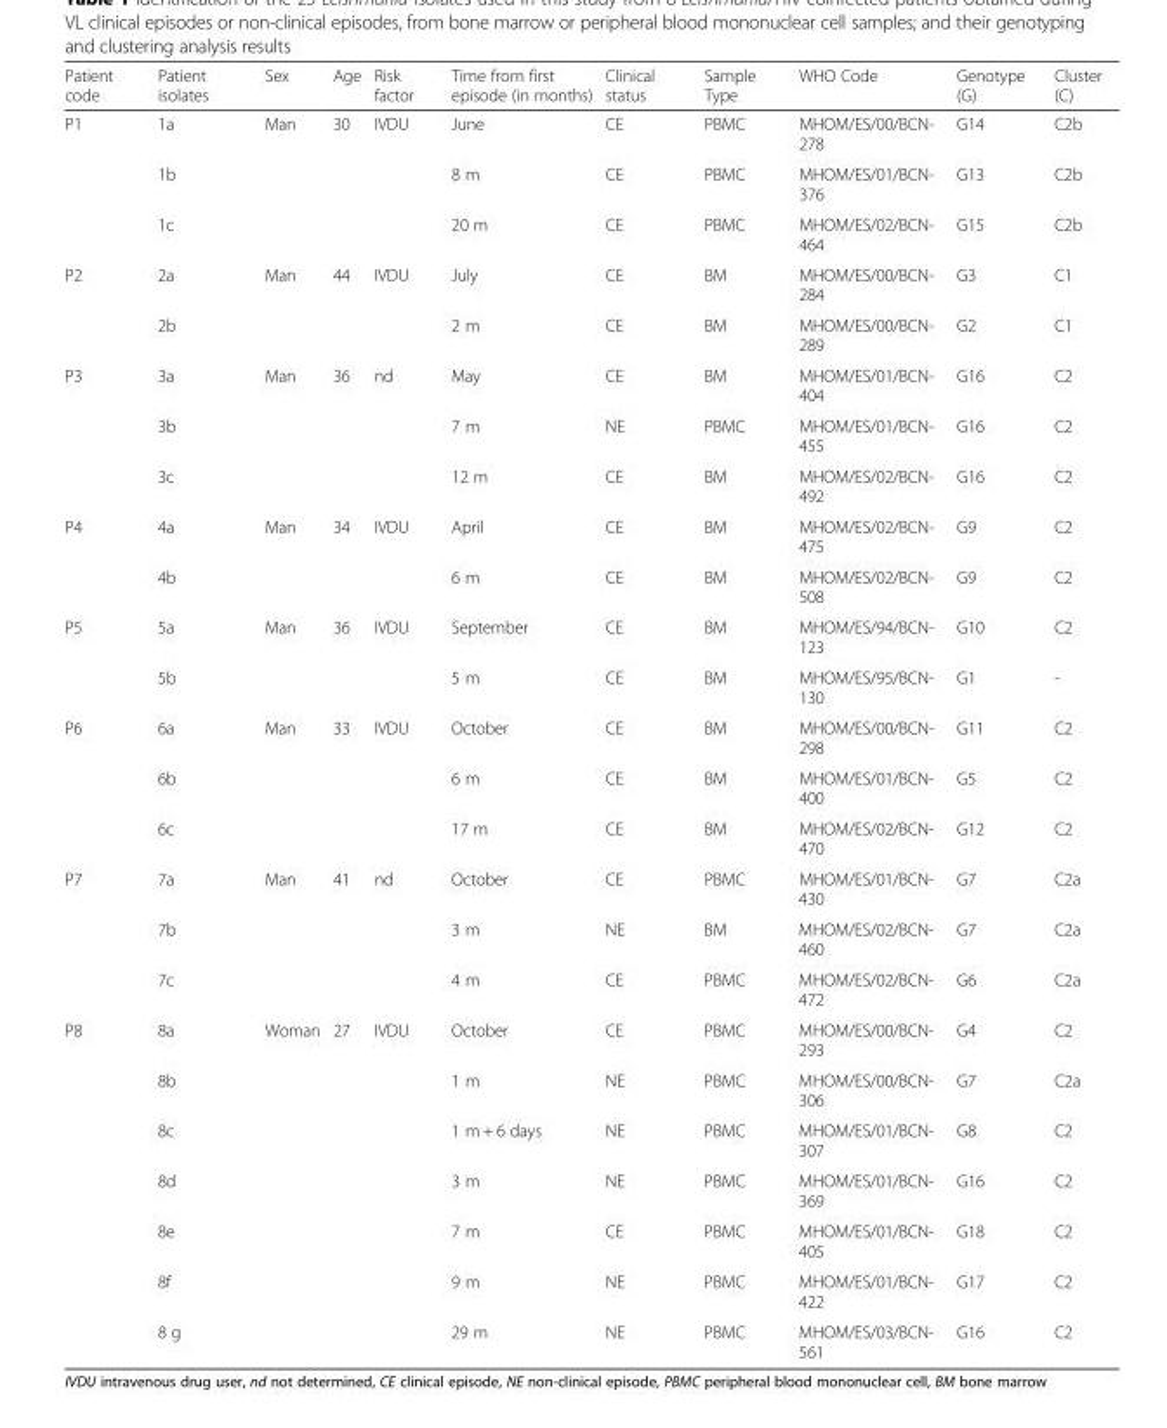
<table><thead><tr><td>Patient code</td><td>Patient isolates</td><td>Sex</td><td>Age</td><td>Risk factor</td><td>Time from first episode (in months)</td><td>Clinical status</td><td>Sample Type</td><td>WHO Code</td><td>Genotype (G)</td><td>Cluster (C)</td></tr></thead><tbody><tr><td rowspan="3">P1</td><td>1a</td><td>Man</td><td>30</td><td>IVDU</td><td>June</td><td>CE</td><td>PBMC</td><td>MHOM/ES/00/BCN- 278</td><td>G14</td><td>C2b</td></tr><tr><td>1b</td><td></td><td></td><td></td><td>8 m</td><td>CE</td><td>PBMC</td><td>MHOM/ES/01/BCN- 376</td><td>G13</td><td>C2b</td></tr><tr><td>1c</td><td></td><td></td><td></td><td>20 m</td><td>CE</td><td>PBMC</td><td>MHOM/ES/02/BCN- 464</td><td>G15</td><td>C2b</td></tr><tr><td rowspan="2">P2</td><td>2a</td><td>Man</td><td>44</td><td>IVDU</td><td>July</td><td>CE</td><td>BM</td><td>MHOM/ES/00/BCN- 284</td><td>G3</td><td>C1</td></tr><tr><td>2b</td><td></td><td></td><td></td><td>2 m</td><td>CE</td><td>BM</td><td>MHOM/ES/00/BCN- 289</td><td>G2</td><td>C1</td></tr><tr><td rowspan="3">P3</td><td>3a</td><td>Man</td><td>36</td><td>nd</td><td>May</td><td>CE</td><td>BM</td><td>MHOM/ES/01/BCN- 404</td><td>G16</td><td>C2</td></tr><tr><td>3b</td><td></td><td></td><td></td><td>7 m</td><td>NE</td><td>PBMC</td><td>MHOM/ES/01/BCN- 455</td><td>G16</td><td>C2</td></tr><tr><td>3c</td><td></td><td></td><td></td><td>12 m</td><td>CE</td><td>BM</td><td>MHOM/ES/02/BCN- 492</td><td>G16</td><td>C2</td></tr><tr><td rowspan="2">P4</td><td>4a</td><td>Man</td><td>34</td><td>IVDU</td><td>April</td><td>CE</td><td>BM</td><td>MHOM/ES/02/BCN- 475</td><td>G9</td><td>C2</td></tr><tr><td>4b</td><td></td><td></td><td></td><td>6 m</td><td>CE</td><td>BM</td><td>MHOM/ES/02/BCN- 508</td><td>G9</td><td>C2</td></tr><tr><td rowspan="2">P5</td><td>5a</td><td>Man</td><td>36</td><td>IVDU</td><td>September</td><td>CE</td><td>BM</td><td>MHOM/ES/94/BCN- 123</td><td>G10</td><td>C2</td></tr><tr><td>5b</td><td></td><td></td><td></td><td>5 m</td><td>CE</td><td>BM</td><td>MHOM/ES/95/BCN- 130</td><td>G1</td><td>-</td></tr><tr><td rowspan="3">P6</td><td>6a</td><td>Man</td><td>33</td><td>IVDU</td><td>October</td><td>CE</td><td>BM</td><td>MHOM/ES/00/BCN- 298</td><td>G11</td><td>C2</td></tr><tr><td>6b</td><td></td><td></td><td></td><td>6 m</td><td>CE</td><td>BM</td><td>MHOM/ES/01/BCN- 400</td><td>G5</td><td>C2</td></tr><tr><td>6c</td><td></td><td></td><td></td><td>17 m</td><td>CE</td><td>BM</td><td>MHOM/ES/02/BCN- 470</td><td>G12</td><td>C2</td></tr><tr><td rowspan="3">P7</td><td>7a</td><td>Man</td><td>41</td><td>nd</td><td>October</td><td>CE</td><td>PBMC</td><td>MHOM/ES/01/BCN- 430</td><td>G7</td><td>C2a</td></tr><tr><td>7b</td><td></td><td></td><td></td><td>3 m</td><td>NE</td><td>BM</td><td>MHOM/ES/02/BCN- 460</td><td>G7</td><td>C2a</td></tr><tr><td>7c</td><td></td><td></td><td></td><td>4 m</td><td>CE</td><td>PBMC</td><td>MHOM/ES/02/BCN- 472</td><td>G6</td><td>C2a</td></tr><tr><td rowspan="7">P8</td><td>8a</td><td>Woman</td><td>27</td><td>IVDU</td><td>October</td><td>CE</td><td>PBMC</td><td>MHOM/ES/00/BCN- 293</td><td>G4</td><td>C2</td></tr><tr><td>8b</td><td></td><td></td><td></td><td>1 m</td><td>NE</td><td>PBMC</td><td>MHOM/ES/00/BCN- 306</td><td>G7</td><td>C2a</td></tr><tr><td>8c</td><td></td><td></td><td></td><td>1 m + 6 days</td><td>NE</td><td>PBMC</td><td>MHOM/ES/01/BCN- 307</td><td>G8</td><td>C2</td></tr><tr><td>8d</td><td></td><td></td><td></td><td>3 m</td><td>NE</td><td>PBMC</td><td>MHOM/ES/01/BCN- 369</td><td>G16</td><td>C2</td></tr><tr><td>8e</td><td></td><td></td><td></td><td>7 m</td><td>CE</td><td>PBMC</td><td>MHOM/ES/01/BCN- 405</td><td>G18</td><td>C2</td></tr><tr><td>8f</td><td></td><td></td><td></td><td>9 m</td><td>NE</td><td>PBMC</td><td>MHOM/ES/01/BCN- 422</td><td>G17</td><td>C2</td></tr><tr><td>8 g</td><td></td><td></td><td></td><td>29 m</td><td>NE</td><td>PBMC</td><td>MHOM/ES/03/BCN- 561</td><td>G16</td><td>C2</td></tr></tbody></table>